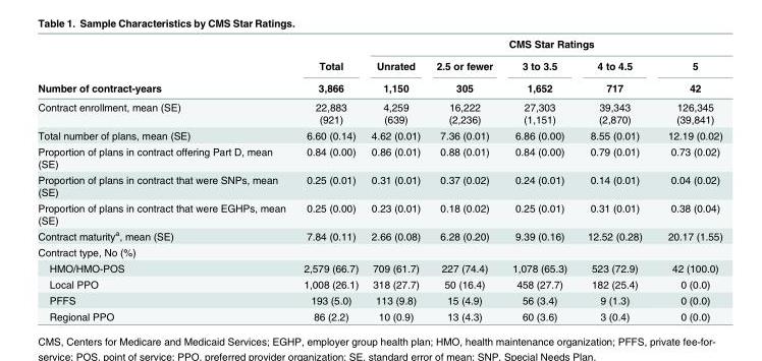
<table><thead><tr><td rowspan="3">Number of contract-years</td><td rowspan="3">Total 3,866</td><td colspan="5">CMS Star Ratings</td></tr><tr><td rowspan="2">Unrated 1,150</td><td rowspan="2">2.5 or fewer 305</td><td rowspan="2">3 to 3.5 1,652</td><td rowspan="2">4 to 4.5 717</td><td rowspan="2">5 42</td></tr><tr></tr></thead><tbody><tr><td>Contract enrollment, mean (SE)</td><td>22,883 (921)</td><td>4,259 (639)</td><td>16,222 (2,236)</td><td>27,303 (1,151)</td><td>39,343 (2,870)</td><td>126,345 (39,841)</td></tr><tr><td>Total number of plans, mean (SE)</td><td>6.60 (0.14)</td><td>4.62 (0.01)</td><td>7.36 (0.01)</td><td>6.86 (0.00)</td><td>8.55 (0.01)</td><td>12.19 (0.02)</td></tr><tr><td>Proportion of plans in contract offering Part D, mean (SE)</td><td>0.84 (0.00)</td><td>0.86 (0.01)</td><td>0.88 (0.01)</td><td>0.84 (0.00)</td><td>0.79 (0.01)</td><td>0.73 (0.02)</td></tr><tr><td>Proportion of plans in contract that were SNPs, mean (SE)</td><td>0.25 (0.01)</td><td>0.31 (0.01)</td><td>0.37 (0.02)</td><td>0.24 (0.01)</td><td>0.14 (0.01)</td><td>0.04 (0.02)</td></tr><tr><td>Proportion of plans in contract that were EGHPs, mean (SE)</td><td>0.25 (0.00)</td><td>0.23 (0.01)</td><td>0.18 (0.02)</td><td>0.25 (0.01)</td><td>0.31 (0.01)</td><td>0.38 (0.04)</td></tr><tr><td>Contract maturity<sup>a</sup>, mean (SE)</td><td>7.84 (0.11)</td><td>2.66 (0.08)</td><td>6.28 (0.20)</td><td>9.39 (0.16)</td><td>12.52 (0.28)</td><td>20.17 (1.55)</td></tr><tr><td colspan="7">Contract type, No (%)</td></tr><tr><td>HMO/HMO-POS</td><td>2,579 (66.7)</td><td>709 (61.7)</td><td>227 (74.4)</td><td>1,078 (65.3)</td><td>523 (72.9)</td><td>42 (100.0)</td></tr><tr><td>Local PPO</td><td>1,008 (26.1)</td><td>318 (27.7)</td><td>50 (16.4)</td><td>458 (27.7)</td><td>182 (25.4)</td><td>0 (0.0)</td></tr><tr><td>PFFS</td><td>193 (5.0)</td><td>113 (9.8)</td><td>15 (4.9)</td><td>56 (3.4)</td><td>9 (1.3)</td><td>0 (0.0)</td></tr><tr><td>Regional PPO</td><td>86 (2.2)</td><td>10 (0.9)</td><td>13 (4.3)</td><td>60 (3.6)</td><td>3 (0.4)</td><td>0 (0.0)</td></tr></tbody></table>